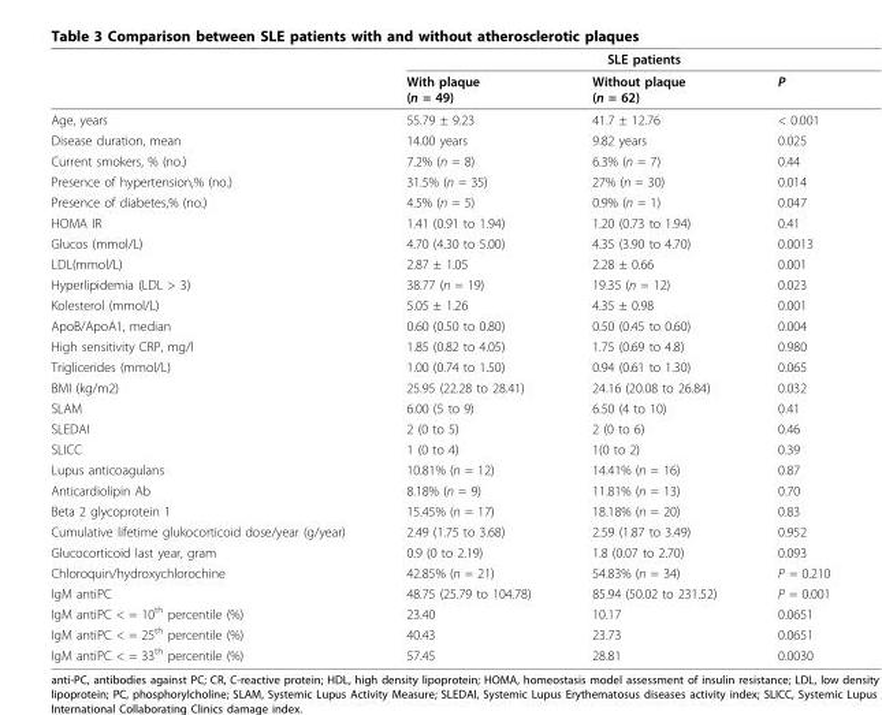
<table><thead><tr><td rowspan="2"></td><td colspan="3">SLE patients</td></tr><tr><td>With plaque (n = 49)</td><td>Without plaque (n = 62)</td><td>P</td></tr></thead><tbody><tr><td>Age, years</td><td>55.79 ± 9.23</td><td>41.7 ± 12.76</td><td>&lt; 0.001</td></tr><tr><td>Disease duration, mean</td><td>14.00 years</td><td>9.82 years</td><td>0.025</td></tr><tr><td>Current smokers, % (no.)</td><td>7.2% (n = 8)</td><td>6.3% (n = 7)</td><td>0.44</td></tr><tr><td>Presence of hypertension,% (no.)</td><td>31.5% (n = 35)</td><td>27% (n = 30)</td><td>0.014</td></tr><tr><td>Presence of diabetes,% (no.)</td><td>4.5% (n = 5)</td><td>0.9% (n = 1)</td><td>0.047</td></tr><tr><td>HOMA IR</td><td>1.41 (0.91 to 1.94)</td><td>1.20 (0.73 to 1.94)</td><td>0.41</td></tr><tr><td>Glucos (mmol/L)</td><td>4.70 (4.30 to 5.00)</td><td>4.35 (3.90 to 4.70)</td><td>0.0013</td></tr><tr><td>LDL(mmol/L)</td><td>2.87 ± 1.05</td><td>2.28 ± 0.66</td><td>0.001</td></tr><tr><td>Hyperlipidemia (LDL &gt; 3)</td><td>38.77 (n = 19)</td><td>19.35 (n = 12)</td><td>0.023</td></tr><tr><td>Kolesterol (mmol/L)</td><td>5.05 ± 1.26</td><td>4.35 ± 0.98</td><td>0.001</td></tr><tr><td>ApoB/ApoA1, median</td><td>0.60 (0.50 to 0.80)</td><td>0.50 (0.45 to 0.60)</td><td>0.004</td></tr><tr><td>High sensitivity CRP, mg/l</td><td>1.85 (0.82 to 4.05)</td><td>1.75 (0.69 to 4.8)</td><td>0.980</td></tr><tr><td>Triglicerides (mmol/L)</td><td>1.00 (0.74 to 1.50)</td><td>0.94 (0.61 to 1.30)</td><td>0.065</td></tr><tr><td>BMI (kg/m2)</td><td>25.95 (22.28 to 28.41)</td><td>24.16 (20.08 to 26.84)</td><td>0.032</td></tr><tr><td>SLAM</td><td>6.00 (5 to 9)</td><td>6.50 (4 to 10)</td><td>0.41</td></tr><tr><td>SLEDAI</td><td>2 (0 to 5)</td><td>2 (0 to 6)</td><td>0.46</td></tr><tr><td>SLICC</td><td>1 (0 to 4)</td><td>1(0 to 2)</td><td>0.39</td></tr><tr><td>Lupus anticoagulans</td><td>10.81% (n = 12)</td><td>14.41% (n = 16)</td><td>0.87</td></tr><tr><td>Anticardiolipin Ab</td><td>8.18% (n = 9)</td><td>11.81% (n = 13)</td><td>0.70</td></tr><tr><td>Beta 2 glycoprotein 1</td><td>15.45% (n = 17)</td><td>18.18% (n = 20)</td><td>0.83</td></tr><tr><td>Cumulative lifetime glukocorticoid dose/year (g/year)</td><td>2.49 (1.75 to 3.68)</td><td>2.59 (1.87 to 3.49)</td><td>0.952</td></tr><tr><td>Glucocorticoid last year, gram</td><td>0.9 (0 to 2.19)</td><td>1.8 (0.07 to 2.70)</td><td>0.093</td></tr><tr><td>Chloroquin/hydroxychlorochine</td><td>42.85% (n = 21)</td><td>54.83% (n = 34)</td><td>P = 0.210</td></tr><tr><td>IgM antiPC</td><td>48.75 (25.79 to 104.78)</td><td>85.94 (50.02 to 231.52)</td><td>P = 0.001</td></tr><tr><td>IgM antiPC &lt; = 10<sup>th</sup> percentile (%)</td><td>23.40</td><td>10.17</td><td>0.0651</td></tr><tr><td>IgM antiPC &lt; = 25<sup>th</sup> percentile (%)</td><td>40.43</td><td>23.73</td><td>0.0651</td></tr><tr><td>IgM antiPC &lt; = 33<sup>th</sup> percentile (%)</td><td>57.45</td><td>28.81</td><td>0.0030</td></tr></tbody></table>